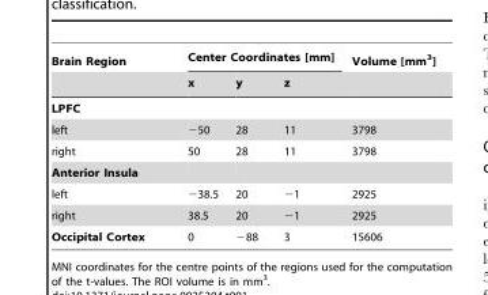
<table><thead><tr><td rowspan="2">Brain Region</td><td colspan="3">Center Coordinates [mm]</td><td rowspan="2">Volume [mm<sup>3</sup>]</td></tr><tr><td>x</td><td>y</td><td>z</td></tr></thead><tbody><tr><td colspan="5">LPFC</td></tr><tr><td>left</td><td>−50</td><td>28</td><td>11</td><td>3798</td></tr><tr><td>right</td><td>50</td><td>28</td><td>11</td><td>3798</td></tr><tr><td colspan="5">Anterior Insula</td></tr><tr><td>left</td><td>−38.5</td><td>20</td><td>−1</td><td>2925</td></tr><tr><td>right</td><td>38.5</td><td>20</td><td>−1</td><td>2925</td></tr><tr><td>Occipital Cortex</td><td>0</td><td>−88</td><td>3</td><td>15606</td></tr></tbody></table>